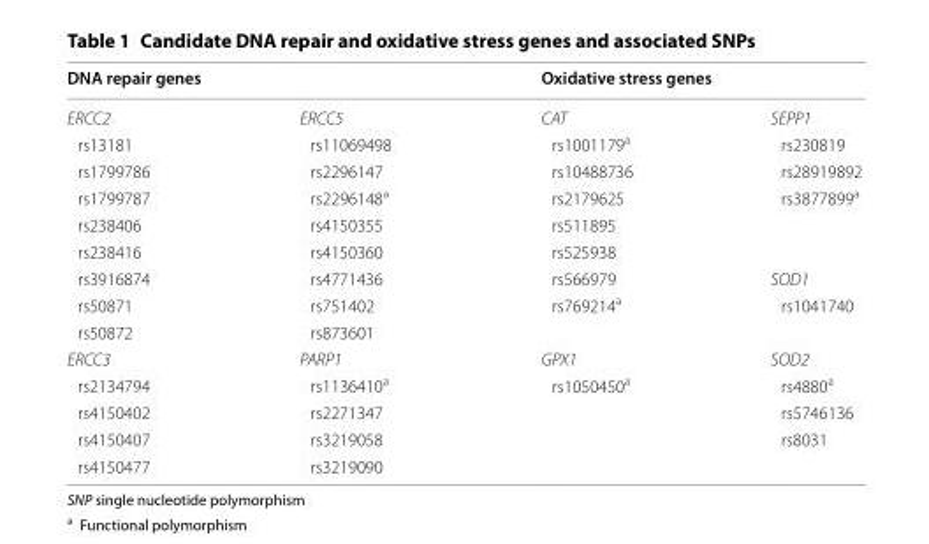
<table><thead><tr><td colspan="2">DNA repair genes</td><td colspan="2">Oxidative stress genes</td></tr><tr><td>ERCC2</td><td>ERCC5</td><td>CAT</td><td>SEPP1</td></tr></thead><tbody><tr><td>rs13181</td><td>rs11069498</td><td>rs1001179<sup>a</sup></td><td>rs230819</td></tr><tr><td>rs1799786</td><td>rs2296147</td><td>rs10488736</td><td>rs28919892</td></tr><tr><td>rs1799787</td><td>rs2296148<sup>a</sup></td><td>rs2179625</td><td>rs3877899<sup>a</sup></td></tr><tr><td>rs238406</td><td>rs4150355</td><td>rs511895</td><td></td></tr><tr><td>rs238416</td><td>rs4150360</td><td>rs525938</td><td></td></tr><tr><td>rs3916874</td><td>rs4771436</td><td>rs566979</td><td>SOD1</td></tr><tr><td>rs50871</td><td>rs751402</td><td>rs769214<sup>a</sup></td><td>rs1041740</td></tr><tr><td>rs50872</td><td>rs873601</td><td></td><td></td></tr><tr><td>ERCC3</td><td>PARP1</td><td>GPX1</td><td>SOD2</td></tr><tr><td>rs2134794</td><td>rs1136410<sup>a</sup></td><td>rs1050450<sup>a</sup></td><td>rs4880<sup>a</sup></td></tr><tr><td>rs4150402</td><td>rs2271347</td><td></td><td>rs5746136</td></tr><tr><td>rs4150407</td><td>rs3219058</td><td></td><td>rs8031</td></tr><tr><td>rs4150477</td><td>rs3219090</td><td></td><td></td></tr></tbody></table>